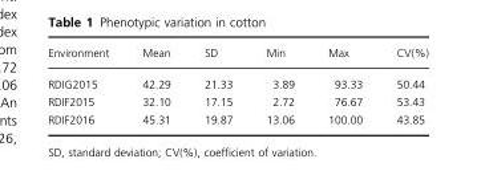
<table><thead><tr><td>Environment</td><td>Mean</td><td>SD</td><td>Min</td><td>Max</td><td>CV(%)</td></tr></thead><tbody><tr><td>RDIG2015</td><td>42.29</td><td>21.33</td><td>3.89</td><td>93.33</td><td>50.44</td></tr><tr><td>RDIF2015</td><td>32.10</td><td>17.15</td><td>2.72</td><td>76.67</td><td>53.43</td></tr><tr><td>RDIF2016</td><td>45.31</td><td>19.87</td><td>13.06</td><td>100.00</td><td>43.85</td></tr></tbody></table>